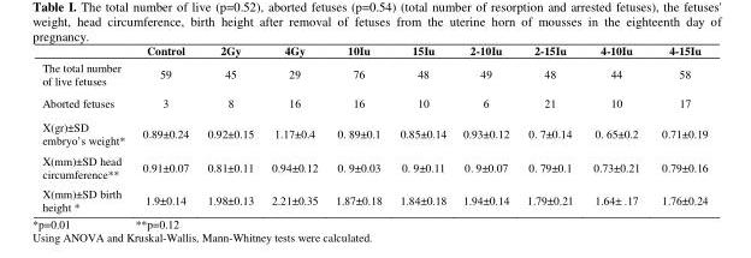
<table><thead><tr><td></td><td>Control</td><td>2Gy</td><td>4Gy</td><td>10Iu</td><td>15Iu</td><td>2-10Iu</td><td>2-15Iu</td><td>4-10Iu</td><td>4-15Iu</td></tr></thead><tbody><tr><td>The total number of live fetuses</td><td>59</td><td>45</td><td>29</td><td>76</td><td>48</td><td>49</td><td>48</td><td>44</td><td>58</td></tr><tr><td>Aborted fetuses</td><td>3</td><td>8</td><td>16</td><td>16</td><td>10</td><td>6</td><td>21</td><td>10</td><td>17</td></tr><tr><td>X(gr)±SD embryo’s weight*</td><td>0.89±0.24</td><td>0.92±0.15</td><td>1.17±0.4</td><td>0. 89±0.1</td><td>0.85±0.14</td><td>0.93±0.12</td><td>0. 7±0.14</td><td>0. 65±0.2</td><td>0.71±0.19</td></tr><tr><td>X(mm)±SD head circumference**</td><td>0.91±0.07</td><td>0.81±0.11</td><td>0.94±0.12</td><td>0. 9±0.03</td><td>0. 9±0.11</td><td>0. 9±0.07</td><td>0. 79±0.1</td><td>0.73±0.21</td><td>0.79±0.16</td></tr><tr><td>X(mm)±SD birth height *</td><td>1.9±0.14</td><td>1.98±0.13</td><td>2.21±0.35</td><td>1.87±0.18</td><td>1.84±0.18</td><td>1.94±0.14</td><td>1.79±0.21</td><td>1.64± .17</td><td>1.76±0.24</td></tr></tbody></table>